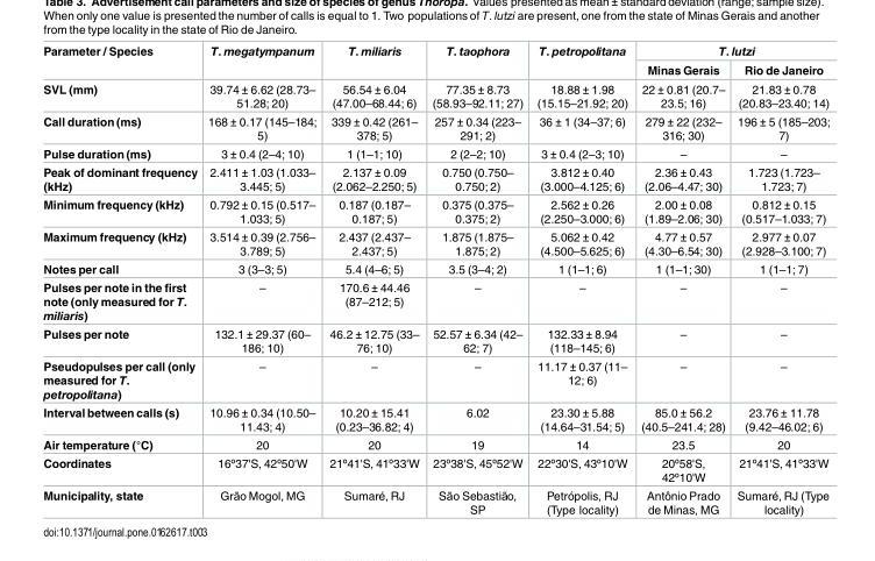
<table><thead><tr><td rowspan="2">Parameter / Species</td><td rowspan="2">T. megatympanum</td><td rowspan="2">T. miliaris</td><td rowspan="2">T. taophora</td><td rowspan="2">T. petropolitana</td><td colspan="2">T. lutzi</td></tr><tr><td>Minas Gerais</td><td>Rio de Janeiro</td></tr></thead><tbody><tr><td>SVL (mm)</td><td>39.74 ± 6.62 (28.73– 51.28; 20)</td><td>56.54 ± 6.04 (47.00–68.44; 6)</td><td>77.35 ± 8.73 (58.93–92.11; 27)</td><td>18.88 ± 1.98 (15.15–21.92; 20)</td><td>22 ± 0.81 (20.7– 23.5; 16)</td><td>21.83 ± 0.78 (20.83–23.40; 14)</td></tr><tr><td>Call duration (ms)</td><td>168 ± 0.17 (145–184; 5)</td><td>339 ± 0.42 (261– 378; 5)</td><td>257 ± 0.34 (223– 291; 2)</td><td>36 ± 1 (34–37; 6)</td><td>279 ± 22 (232– 316; 30)</td><td>196 ± 5 (185–203; 7)</td></tr><tr><td>Pulse duration (ms)</td><td>3 ± 0.4 (2–4; 10)</td><td>1 (1–1; 10)</td><td>2 (2–2; 10)</td><td>3 ± 0.4 (2–3; 10)</td><td>–</td><td>–</td></tr><tr><td>Peak of dominant frequency (kHz)</td><td>2.411 ± 1.03 (1.033– 3.445; 5)</td><td>2.137 ± 0.09 (2.062–2.250; 5)</td><td>0.750 (0.750– 0.750; 2)</td><td>3.812 ± 0.40 (3.000–4.125; 6)</td><td>2.36 ± 0.43 (2.06–4.47; 30)</td><td>1.723 (1.723– 1.723; 7)</td></tr><tr><td>Minimum frequency (kHz)</td><td>0.792 ± 0.15 (0.517– 1.033; 5)</td><td>0.187 (0.187– 0.187; 5)</td><td>0.375 (0.375– 0.375; 2)</td><td>2.562 ± 0.26 (2.250–3.000; 6)</td><td>2.00 ± 0.08 (1.89–2.06; 30)</td><td>0.812 ± 0.15 (0.517–1.033; 7)</td></tr><tr><td>Maximum frequency (kHz)</td><td>3.514 ± 0.39 (2.756– 3.789; 5)</td><td>2.437 (2.437– 2.437; 5)</td><td>1.875 (1.875– 1.875; 2)</td><td>5.062 ± 0.42 (4.500–5.625; 6)</td><td>4.77 ± 0.57 (4.30–6.54; 30)</td><td>2.977 ± 0.07 (2.928–3.100; 7)</td></tr><tr><td>Notes per call</td><td>3 (3–3; 5)</td><td>5.4 (4–6; 5)</td><td>3.5 (3–4; 2)</td><td>1 (1–1; 6)</td><td>1 (1–1; 30)</td><td>1 (1–1; 7)</td></tr><tr><td>Pulses per note in the first note (only measured for T. miliaris)</td><td>–</td><td>170.6 ± 44.46 (87–212; 5)</td><td>–</td><td>–</td><td>–</td><td>–</td></tr><tr><td>Pulses per note</td><td>132.1 ± 29.37 (60– 186; 10)</td><td>46.2 ± 12.75 (33– 76; 10)</td><td>52.57 ± 6.34 (42– 62; 7)</td><td>132.33 ± 8.94 (118–145; 6)</td><td>–</td><td>–</td></tr><tr><td>Pseudopulses per call (only measured for T. petropolitana)</td><td>–</td><td>–</td><td>–</td><td>11.17 ± 0.37 (11– 12; 6)</td><td>–</td><td>–</td></tr><tr><td>Interval between calls (s)</td><td>10.96 ± 0.34 (10.50– 11.43; 4)</td><td>10.20 ± 15.41 (0.23–36.82; 4)</td><td>6.02</td><td>23.30 ± 5.88 (14.64–31.54; 5)</td><td>85.0 ± 56.2 (40.5–241.4; 28)</td><td>23.76 ± 11.78 (9.42–46.02; 6)</td></tr><tr><td>Air temperature (°C)</td><td>20</td><td>20</td><td>19</td><td>14</td><td>23.5</td><td>20</td></tr><tr><td>Coordinates</td><td>16º37&#x27;S, 42º50&#x27;W</td><td>21º41&#x27;S, 41º33&#x27;W</td><td>23º38&#x27;S, 45º52&#x27;W</td><td>22º30&#x27;S, 43º10&#x27;W</td><td>20º58&#x27;S, 42º10&#x27;W</td><td>21º41&#x27;S, 41º33&#x27;W</td></tr><tr><td>Municipality, state</td><td>Grão Mogol, MG</td><td>Sumaré, RJ</td><td>São Sebastião, SP</td><td>Petrópolis, RJ (Type locality)</td><td>Antônio Prado de Minas, MG</td><td>Sumaré, RJ (Type locality)</td></tr></tbody></table>